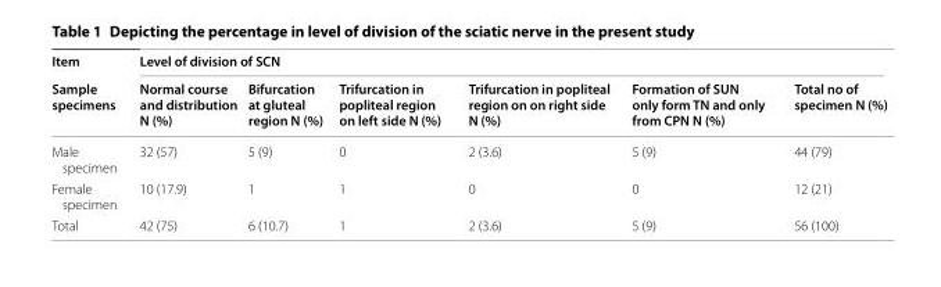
<table><thead><tr><td rowspan="2">Item Sample specimens</td><td colspan="6">Level of division of SCN</td></tr><tr><td>Normal course and distribution N (%)</td><td>Bifurcation at gluteal region N (%)</td><td>Trifurcation in popliteal region on left side N (%)</td><td>Trifurcation in popliteal region on on right side N (%)</td><td>Formation of SUN only form TN and only from CPN N (%)</td><td>Total no of specimen N (%)</td></tr></thead><tbody><tr><td>Male specimen</td><td>32 (57)</td><td>5 (9)</td><td>0</td><td>2 (3.6)</td><td>5 (9)</td><td>44 (79)</td></tr><tr><td>Female specimen</td><td>10 (17.9)</td><td>1</td><td>1</td><td>0</td><td>0</td><td>12 (21)</td></tr><tr><td>Total</td><td>42 (75)</td><td>6 (10.7)</td><td>1</td><td>2 (3.6)</td><td>5 (9)</td><td>56 (100)</td></tr></tbody></table>